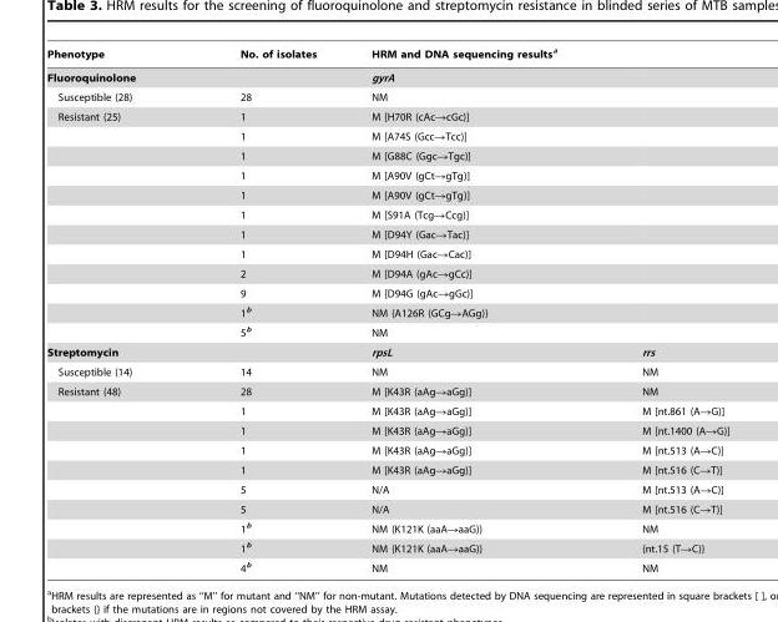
<table><thead><tr><td rowspan="2">Phenotype Fluoroquinolone</td><td rowspan="2">No. of isolates</td><td colspan="2">HRM and DNA sequencing results<sup>a</sup></td></tr><tr><td>gyrA</td><td></td></tr></thead><tbody><tr><td>Susceptible (28)</td><td>28</td><td>NM</td><td></td></tr><tr><td rowspan="12">Resistant (25)</td><td>1</td><td>M [H70R (cAc→cGc)]</td><td></td></tr><tr><td>1</td><td>M [A74S (Gcc→Tcc)]</td><td></td></tr><tr><td>1</td><td>M [G88C (Ggc→Tgc)]</td><td></td></tr><tr><td>1</td><td>M [A90V (gCt→gTg)]</td><td></td></tr><tr><td>1</td><td>M [A90V (gCt→gTg)]</td><td></td></tr><tr><td>1</td><td>M [S91A (Tcg→Ccg)]</td><td></td></tr><tr><td>1</td><td>M [D94Y (Gac→Tac)]</td><td></td></tr><tr><td>1</td><td>M [D94H (Gac→Cac)]</td><td></td></tr><tr><td>2</td><td>M [D94A (gAc→gCc)]</td><td></td></tr><tr><td>9</td><td>M [D94G (gAc→gGc)]</td><td></td></tr><tr><td>1<sup>b</sup></td><td>NM {A126R (GCg→AGg)}</td><td></td></tr><tr><td>5<sup>b</sup></td><td>NM</td><td></td></tr><tr><td>Streptomycin</td><td></td><td>rpsL</td><td>rrs</td></tr><tr><td>Susceptible (14)</td><td>14</td><td>NM</td><td>NM</td></tr><tr><td rowspan="10">Resistant (48)</td><td>28</td><td>M [K43R (aAg→aGg)]</td><td>NM</td></tr><tr><td>1</td><td>M [K43R (aAg→aGg)]</td><td>M [nt.861 (A→G)]</td></tr><tr><td>1</td><td>M [K43R (aAg→aGg)]</td><td>M [nt.1400 (A→G)]</td></tr><tr><td>1</td><td>M [K43R (aAg→aGg)]</td><td>M [nt.513 (A→C)]</td></tr><tr><td>1</td><td>M [K43R (aAg→aGg)]</td><td>M [nt.516 (C→T)]</td></tr><tr><td>5</td><td>N/A</td><td>M [nt.513 (A→C)]</td></tr><tr><td>5</td><td>N/A</td><td>M [nt.516 (C→T)]</td></tr><tr><td>1<sup>b</sup></td><td>NM {K121K (aaA→aaG)}</td><td>NM</td></tr><tr><td>1<sup>b</sup></td><td>NM {K121K (aaA→aaG)}</td><td>{nt.15 (T→C)}</td></tr><tr><td>4<sup>b</sup></td><td>NM</td><td>NM</td></tr></tbody></table>